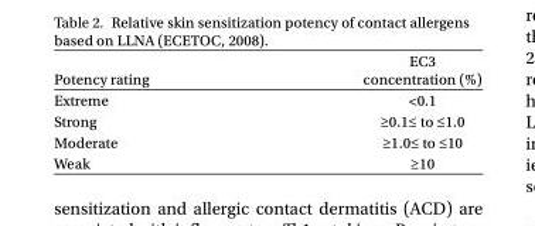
<table><thead><tr><td>Potency rating</td><td>EC3 concentration (%)</td></tr></thead><tbody><tr><td>Extreme</td><td>&lt;0.1</td></tr><tr><td>Strong</td><td>≥0.1≤ to ≤1.0</td></tr><tr><td>Moderate</td><td>≥1.0≤ to ≤10</td></tr><tr><td>Weak</td><td>≥10</td></tr></tbody></table>